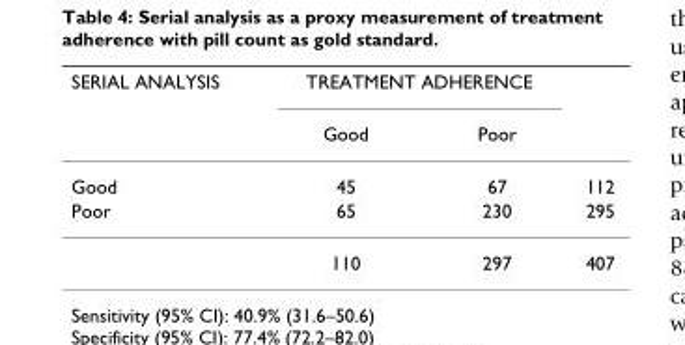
<table><thead><tr><td rowspan="2">SERIAL ANALYSIS</td><td colspan="2">TREATMENT ADHERENCE</td><td rowspan="2"></td></tr><tr><td>Good</td><td>Poor</td></tr></thead><tbody><tr><td>Good</td><td>45</td><td>67</td><td>112</td></tr><tr><td rowspan="2">Poor</td><td>65</td><td>230</td><td>295</td></tr><tr><td>110</td><td>297</td><td>407</td></tr></tbody></table>